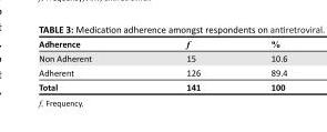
<table><thead><tr><td>Adherence</td><td>f</td><td>%</td></tr></thead><tbody><tr><td>Non Adherent</td><td>15</td><td>10.6</td></tr><tr><td>Adherent</td><td>126</td><td>89.4</td></tr><tr><td>Total</td><td>141</td><td>100</td></tr></tbody></table>